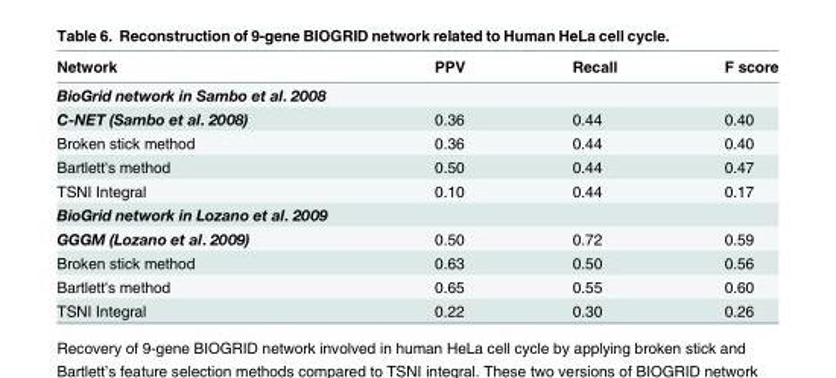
<table><thead><tr><td>Network</td><td>PPV</td><td>Recall</td><td>F score</td></tr></thead><tbody><tr><td colspan="4">BioGrid network in Sambo et al. 2008</td></tr><tr><td>C-NET (Sambo et al. 2008)</td><td>0.36</td><td>0.44</td><td>0.40</td></tr><tr><td>Broken stick method</td><td>0.36</td><td>0.44</td><td>0.40</td></tr><tr><td>Bartlett&#x27;s method</td><td>0.50</td><td>0.44</td><td>0.47</td></tr><tr><td>TSNI Integral</td><td>0.10</td><td>0.44</td><td>0.17</td></tr><tr><td colspan="4">BioGrid network in Lozano et al. 2009</td></tr><tr><td>GGGM (Lozano et al. 2009)</td><td>0.50</td><td>0.72</td><td>0.59</td></tr><tr><td>Broken stick method</td><td>0.63</td><td>0.50</td><td>0.56</td></tr><tr><td>Bartlett&#x27;s method</td><td>0.65</td><td>0.55</td><td>0.60</td></tr><tr><td>TSNI Integral</td><td>0.22</td><td>0.30</td><td>0.26</td></tr></tbody></table>